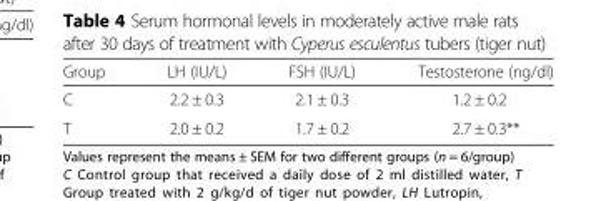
<table><thead><tr><td>Group</td><td>LH (IU/L)</td><td>FSH (IU/L)</td><td>Testosterone (ng/dl)</td></tr></thead><tbody><tr><td>C</td><td>2.2 ± 0.3</td><td>2.1 ± 0.3</td><td>1.2 ± 0.2</td></tr><tr><td>T</td><td>2.0 ± 0.2</td><td>1.7 ± 0.2</td><td>2.7 ± 0.3**</td></tr></tbody></table>